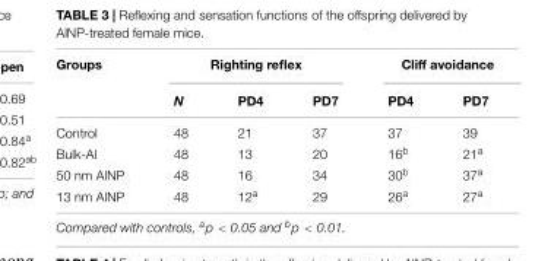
<table><thead><tr><td rowspan="2">Groups</td><td colspan="3">Righting reflex</td><td colspan="2">Cliff avoidance</td></tr><tr><td>N</td><td>PD4</td><td>PD7</td><td>PD4</td><td>PD7</td></tr></thead><tbody><tr><td>Control</td><td>48</td><td>21</td><td>37</td><td>37</td><td>39</td></tr><tr><td>Bulk-Al</td><td>48</td><td>13</td><td>20</td><td>16<sup>b</sup></td><td>21<sup>a</sup></td></tr><tr><td>50 nm AlNP</td><td>48</td><td>16</td><td>34</td><td>30<sup>b</sup></td><td>37<sup>a</sup></td></tr><tr><td>13 nm AlNP</td><td>48</td><td>12<sup>a</sup></td><td>29</td><td>26<sup>a</sup></td><td>27<sup>a</sup></td></tr></tbody></table>